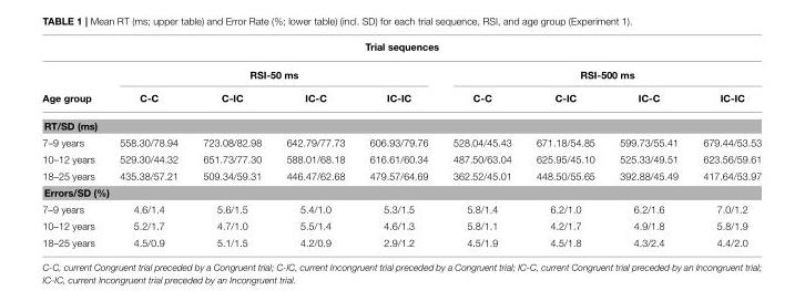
<table><thead><tr><td colspan="9">Trial sequences</td></tr><tr><td rowspan="2">Age group</td><td colspan="4">RSI-50 ms</td><td colspan="4">RSI-500 ms</td></tr><tr><td>C-C</td><td>C-IC</td><td>IC-C</td><td>IC-IC</td><td>C-C</td><td>C-IC</td><td>IC-C</td><td>IC-IC</td></tr></thead><tbody><tr><td colspan="9">RT/SD (ms)</td></tr><tr><td>7–9 years</td><td>558.30/78.94</td><td>723.08/82.98</td><td>642.79/77.73</td><td>606.93/79.76</td><td>528.04/45.43</td><td>671.18/54.85</td><td>599.73/55.41</td><td>679.44/53.53</td></tr><tr><td>10–12 years</td><td>529.30/44.32</td><td>651.73/77.30</td><td>588.01/68.18</td><td>616.61/60.34</td><td>487.50/63.04</td><td>625.95/45.10</td><td>525.33/49.51</td><td>623.56/59.61</td></tr><tr><td>18–25 years</td><td>435.38/57.21</td><td>509.34/59.31</td><td>446.47/62.68</td><td>479.57/64.69</td><td>362.52/45.01</td><td>448.50/55.65</td><td>392.88/45.49</td><td>417.64/53.97</td></tr><tr><td colspan="9">Errors/SD (%)</td></tr><tr><td>7–9 years</td><td>4.6/1.4</td><td>5.6/1.5</td><td>5.4/1.0</td><td>5.3/1.5</td><td>5.8/1.4</td><td>6.2/1.0</td><td>6.2/1.6</td><td>7.0/1.2</td></tr><tr><td>10–12 years</td><td>5.2/1.7</td><td>4.7/1.0</td><td>5.5/1.4</td><td>4.6/1.3</td><td>5.8/1.1</td><td>4.2/1.7</td><td>4.9/1.8</td><td>5.8/1.9</td></tr><tr><td>18–25 years</td><td>4.5/0.9</td><td>5.1/1.5</td><td>4.2/0.9</td><td>2.9/1.2</td><td>4.5/1.9</td><td>4.5/1.8</td><td>4.3/2.4</td><td>4.4/2.0</td></tr></tbody></table>